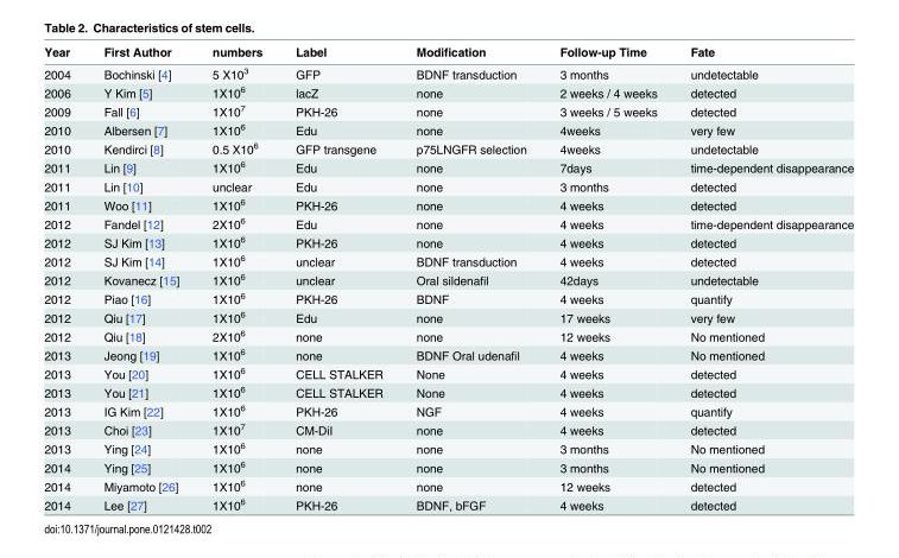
<table><thead><tr><td>Year</td><td>First Author</td><td>numbers</td><td>Label</td><td>Modification</td><td>Follow-up Time</td><td>Fate</td></tr></thead><tbody><tr><td>2004</td><td>Bochinski [4]</td><td>5 X10<sup>3</sup></td><td>GFP</td><td>BDNF transduction</td><td>3 months</td><td>undetectable</td></tr><tr><td>2006</td><td>Y Kim [5]</td><td>1X10<sup>6</sup></td><td>lacZ</td><td>none</td><td>2 weeks / 4 weeks</td><td>detected</td></tr><tr><td>2009</td><td>Fall [6]</td><td>1X10<sup>7</sup></td><td>PKH-26</td><td>none</td><td>3 weeks / 5 weeks</td><td>detected</td></tr><tr><td>2010</td><td>Albersen [7]</td><td>1X10<sup>6</sup></td><td>Edu</td><td>none</td><td>4weeks</td><td>very few</td></tr><tr><td>2010</td><td>Kendirci [8]</td><td>0.5 X10<sup>6</sup></td><td>GFP transgene</td><td>p75LNGFR selection</td><td>4weeks</td><td>undetectable</td></tr><tr><td>2011</td><td>Lin [9]</td><td>1X10<sup>6</sup></td><td>Edu</td><td>none</td><td>7days</td><td>time-dependent disappearance</td></tr><tr><td>2011</td><td>Lin [10]</td><td>unclear</td><td>Edu</td><td>none</td><td>3 months</td><td>detected</td></tr><tr><td>2011</td><td>Woo [11]</td><td>1X10<sup>6</sup></td><td>PKH-26</td><td>none</td><td>4 weeks</td><td>detected</td></tr><tr><td>2012</td><td>Fandel [12]</td><td>2X10<sup>6</sup></td><td>Edu</td><td>none</td><td>4 weeks</td><td>time-dependent disappearance</td></tr><tr><td>2012</td><td>SJ Kim [13]</td><td>1X10<sup>6</sup></td><td>PKH-26</td><td>none</td><td>4 weeks</td><td>detected</td></tr><tr><td>2012</td><td>SJ Kim [14]</td><td>1X10<sup>6</sup></td><td>unclear</td><td>BDNF transduction</td><td>4 weeks</td><td>detected</td></tr><tr><td>2012</td><td>Kovanecz [15]</td><td>1X10<sup>6</sup></td><td>unclear</td><td>Oral sildenafil</td><td>42days</td><td>undetectable</td></tr><tr><td>2012</td><td>Piao [16]</td><td>1X10<sup>6</sup></td><td>PKH-26</td><td>BDNF</td><td>4 weeks</td><td>quantify</td></tr><tr><td>2012</td><td>Qiu [17]</td><td>1X10<sup>6</sup></td><td>Edu</td><td>none</td><td>17 weeks</td><td>very few</td></tr><tr><td>2012</td><td>Qiu [18]</td><td>2X10<sup>6</sup></td><td>none</td><td>none</td><td>12 weeks</td><td>No mentioned</td></tr><tr><td>2013</td><td>Jeong [19]</td><td>1X10<sup>6</sup></td><td>none</td><td>BDNF Oral udenafil</td><td>4 weeks</td><td>No mentioned</td></tr><tr><td>2013</td><td>You [20]</td><td>1X10<sup>6</sup></td><td>CELL STALKER</td><td>None</td><td>4 weeks</td><td>detected</td></tr><tr><td>2013</td><td>You [21]</td><td>1X10<sup>6</sup></td><td>CELL STALKER</td><td>None</td><td>4 weeks</td><td>detected</td></tr><tr><td>2013</td><td>IG Kim [22]</td><td>1X10<sup>6</sup></td><td>PKH-26</td><td>NGF</td><td>4 weeks</td><td>quantify</td></tr><tr><td>2013</td><td>Choi [23]</td><td>1X10<sup>7</sup></td><td>CM-DiI</td><td>none</td><td>4 weeks</td><td>detected</td></tr><tr><td>2013</td><td>Ying [24]</td><td>1X10<sup>6</sup></td><td>none</td><td>none</td><td>3 months</td><td>No mentioned</td></tr><tr><td>2014</td><td>Ying [25]</td><td>1X10<sup>6</sup></td><td>none</td><td>none</td><td>3 months</td><td>No mentioned</td></tr><tr><td>2014</td><td>Miyamoto [26]</td><td>1X10<sup>6</sup></td><td>none</td><td>none</td><td>12 weeks</td><td>detected</td></tr><tr><td>2014</td><td>Lee [27]</td><td>1X10<sup>6</sup></td><td>PKH-26</td><td>BDNF, bFGF</td><td>4 weeks</td><td>detected</td></tr></tbody></table>